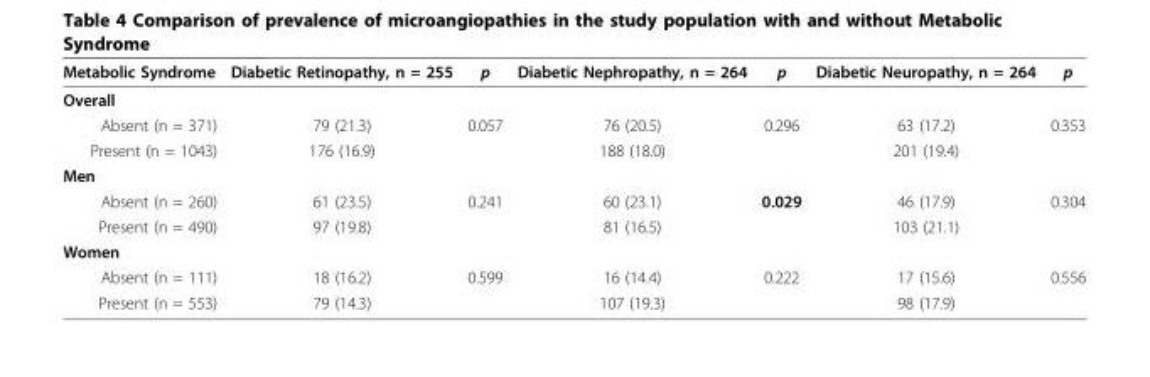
<table><thead><tr><td>Metabolic Syndrome</td><td>Diabetic Retinopathy, n = 255</td><td>p</td><td>Diabetic Nephropathy, n = 264</td><td>p</td><td>Diabetic Neuropathy, n = 264</td><td>p</td></tr></thead><tbody><tr><td colspan="7">Overall</td></tr><tr><td>Absent (n = 371)</td><td>79 (21.3)</td><td>0.057</td><td>76 (20.5)</td><td>0.296</td><td>63 (17.2)</td><td>0.353</td></tr><tr><td>Present (n = 1043)</td><td>176 (16.9)</td><td></td><td>188 (18.0)</td><td></td><td>201 (19.4)</td><td></td></tr><tr><td colspan="7">Men</td></tr><tr><td>Absent (n = 260)</td><td>61 (23.5)</td><td>0.241</td><td>60 (23.1)</td><td>0.029</td><td>46 (17.9)</td><td>0.304</td></tr><tr><td>Present (n = 490)</td><td>97 (19.8)</td><td></td><td>81 (16.5)</td><td></td><td>103 (21.1)</td><td></td></tr><tr><td colspan="7">Women</td></tr><tr><td>Absent (n = 111)</td><td>18 (16.2)</td><td>0.599</td><td>16 (14.4)</td><td>0.222</td><td>17 (15.6)</td><td>0.556</td></tr><tr><td>Present (n = 553)</td><td>79 (14.3)</td><td></td><td>107 (19.3)</td><td></td><td>98 (17.9)</td><td></td></tr></tbody></table>